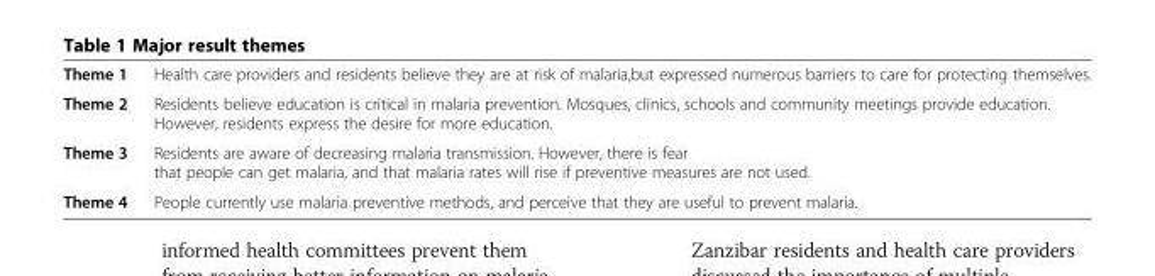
<table><tbody><tr><td>Theme 1</td><td>Health care providers and residents believe they are at risk of malaria,but expressed numerous barriers to care for protecting themselves.</td></tr><tr><td>Theme 2</td><td>Residents believe education is critical in malaria prevention. Mosques, clinics, schools and community meetings provide education. However, residents express the desire for more education.</td></tr><tr><td>Theme 3</td><td>Residents are aware of decreasing malaria transmission. However, there is fear that people can get malaria, and that malaria rates will rise if preventive measures are not used.</td></tr><tr><td>Theme 4</td><td>People currently use malaria preventive methods, and perceive that they are useful to prevent malaria.</td></tr></tbody></table>